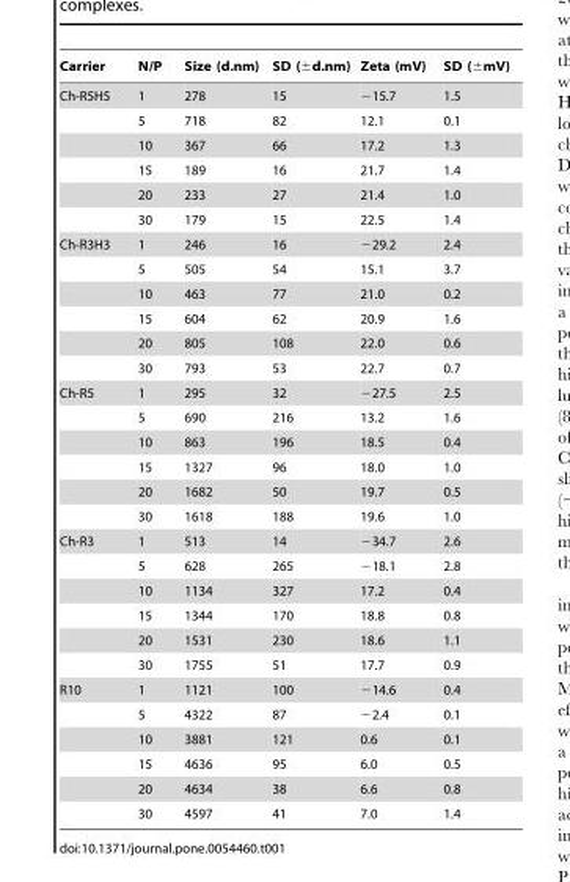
<table><thead><tr><td>Carrier</td><td>N/P</td><td>Size (d.nm)</td><td>SD (±d.nm)</td><td>Zeta (mV)</td><td>SD (±mV)</td></tr></thead><tbody><tr><td rowspan="6">Ch-R5H5</td><td>1</td><td>278</td><td>15</td><td>−15.7</td><td>1.5</td></tr><tr><td>5</td><td>718</td><td>82</td><td>12.1</td><td>0.1</td></tr><tr><td>10</td><td>367</td><td>66</td><td>17.2</td><td>1.3</td></tr><tr><td>15</td><td>189</td><td>16</td><td>21.7</td><td>1.4</td></tr><tr><td>20</td><td>233</td><td>27</td><td>21.4</td><td>1.0</td></tr><tr><td>30</td><td>179</td><td>15</td><td>22.5</td><td>1.4</td></tr><tr><td rowspan="6">Ch-R3H3</td><td>1</td><td>246</td><td>16</td><td>−29.2</td><td>2.4</td></tr><tr><td>5</td><td>505</td><td>54</td><td>15.1</td><td>3.7</td></tr><tr><td>10</td><td>463</td><td>77</td><td>21.0</td><td>0.2</td></tr><tr><td>15</td><td>604</td><td>62</td><td>20.9</td><td>1.6</td></tr><tr><td>20</td><td>805</td><td>108</td><td>22.0</td><td>0.6</td></tr><tr><td>30</td><td>793</td><td>53</td><td>22.7</td><td>0.7</td></tr><tr><td rowspan="6">Ch-R5</td><td>1</td><td>295</td><td>32</td><td>−27.5</td><td>2.5</td></tr><tr><td>5</td><td>690</td><td>216</td><td>13.2</td><td>1.6</td></tr><tr><td>10</td><td>863</td><td>196</td><td>18.5</td><td>0.4</td></tr><tr><td>15</td><td>1327</td><td>96</td><td>18.0</td><td>1.0</td></tr><tr><td>20</td><td>1682</td><td>50</td><td>19.7</td><td>0.5</td></tr><tr><td>30</td><td>1618</td><td>188</td><td>19.6</td><td>1.0</td></tr><tr><td rowspan="6">Ch-R3</td><td>1</td><td>513</td><td>14</td><td>−34.7</td><td>2.6</td></tr><tr><td>5</td><td>628</td><td>265</td><td>−18.1</td><td>2.8</td></tr><tr><td>10</td><td>1134</td><td>327</td><td>17.2</td><td>0.4</td></tr><tr><td>15</td><td>1344</td><td>170</td><td>18.8</td><td>0.8</td></tr><tr><td>20</td><td>1531</td><td>230</td><td>18.6</td><td>1.1</td></tr><tr><td>30</td><td>1755</td><td>51</td><td>17.7</td><td>0.9</td></tr><tr><td rowspan="6">R10</td><td>1</td><td>1121</td><td>100</td><td>−14.6</td><td>0.4</td></tr><tr><td>5</td><td>4322</td><td>87</td><td>−2.4</td><td>0.1</td></tr><tr><td>10</td><td>3881</td><td>121</td><td>0.6</td><td>0.1</td></tr><tr><td>15</td><td>4636</td><td>95</td><td>6.0</td><td>0.5</td></tr><tr><td>20</td><td>4634</td><td>38</td><td>6.6</td><td>0.8</td></tr><tr><td>30</td><td>4597</td><td>41</td><td>7.0</td><td>1.4</td></tr></tbody></table>